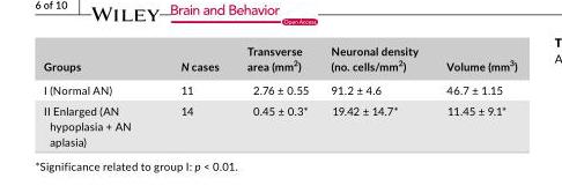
<table><thead><tr><td>Groups</td><td>N cases</td><td>Transverse area (mm<sup>2</sup>)</td><td>Neuronal density (no. cells/mm<sup>2</sup>)</td><td>Volume (mm<sup>3</sup>)</td></tr></thead><tbody><tr><td>I (Normal AN)</td><td>11</td><td>2.76 ± 0.55</td><td>91.2 ± 4.6</td><td>46.7 ± 1.15</td></tr><tr><td>II Enlarged (AN hypoplasia + AN aplasia)</td><td>14</td><td>0.45 ± 0.3*</td><td>19.42 ± 14.7*</td><td>11.45 ± 9.1*</td></tr></tbody></table>